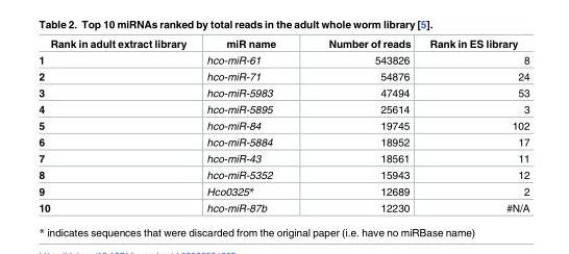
<table><thead><tr><td>Rank in adult extract library</td><td>miR name</td><td>Number of reads</td><td>Rank in ES library</td></tr></thead><tbody><tr><td>1</td><td>hco-miR-61</td><td>543826</td><td>8</td></tr><tr><td>2</td><td>hco-miR-71</td><td>54876</td><td>24</td></tr><tr><td>3</td><td>hco-miR-5983</td><td>47494</td><td>53</td></tr><tr><td>4</td><td>hco-miR-5895</td><td>25614</td><td>3</td></tr><tr><td>5</td><td>hco-miR-84</td><td>19745</td><td>102</td></tr><tr><td>6</td><td>hco-miR-5884</td><td>18952</td><td>17</td></tr><tr><td>7</td><td>hco-miR-43</td><td>18561</td><td>11</td></tr><tr><td>8</td><td>hco-miR-5352</td><td>15943</td><td>12</td></tr><tr><td>9</td><td>Hco0325*</td><td>12689</td><td>2</td></tr><tr><td>10</td><td>hco-miR-87b</td><td>12230</td><td>#N/A</td></tr></tbody></table>